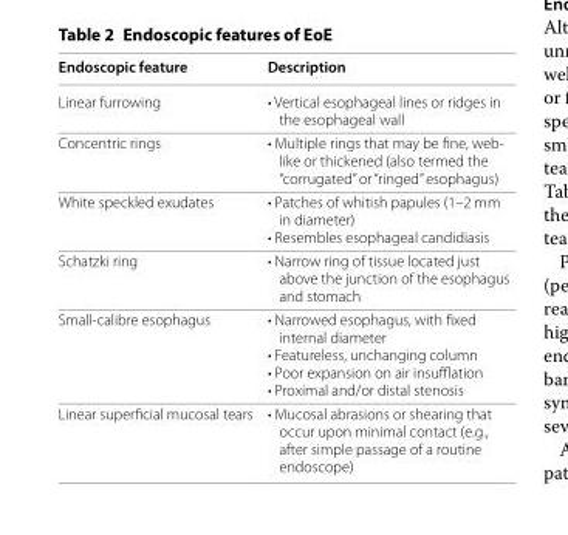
<table><thead><tr><td>Endoscopic feature</td><td>Description</td></tr></thead><tbody><tr><td>Linear furrowing</td><td>• Vertical esophageal lines or ridges in the esophageal wall</td></tr><tr><td>Concentric rings</td><td>• Multiple rings that may be fine, web- like or thickened (also termed the “corrugated” or “ringed” esophagus)</td></tr><tr><td>White speckled exudates</td><td>• Patches of whitish papules (1–2 mm in diameter) • Resembles esophageal candidiasis</td></tr><tr><td>Schatzki ring</td><td>• Narrow ring of tissue located just above the junction of the esophagus and stomach</td></tr><tr><td>Small-calibre esophagus</td><td>• Narrowed esophagus, with fixed internal diameter • Featureless, unchanging column • Poor expansion on air insufflation • Proximal and/or distal stenosis</td></tr><tr><td>Linear superficial mucosal tears</td><td>• Mucosal abrasions or shearing that occur upon minimal contact (e.g., after simple passage of a routine endoscope)</td></tr></tbody></table>